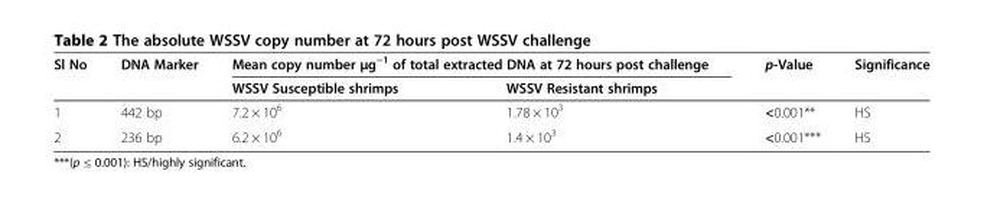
<table><thead><tr><td rowspan="2">Sl No</td><td rowspan="2">DNA Marker</td><td colspan="2">Mean copy number μg<sup>−1</sup> of total extracted DNA at 72 hours post challenge</td><td rowspan="2">p-Value</td><td rowspan="2">Significance</td></tr><tr><td>WSSV Susceptible shrimps</td><td>WSSV Resistant shrimps</td></tr></thead><tbody><tr><td>1</td><td>442 bp</td><td>7.2 × 10<sup>6</sup></td><td>1.78 × 10<sup>3</sup></td><td>&lt;0.001**</td><td>HS</td></tr><tr><td>2</td><td>236 bp</td><td>6.2 × 10<sup>6</sup></td><td>1.4 × 10<sup>3</sup></td><td>&lt;0.001***</td><td>HS</td></tr></tbody></table>